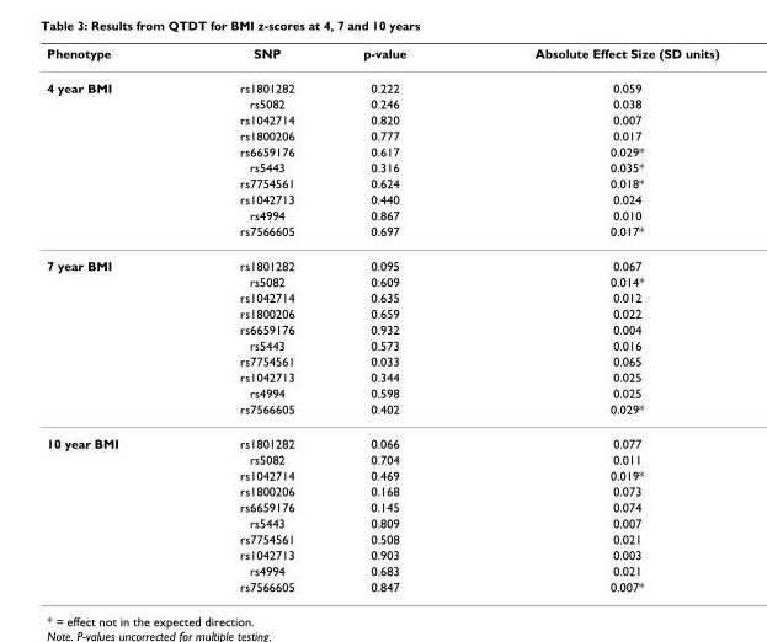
<table><thead><tr><td>Phenotype</td><td>SNP</td><td>p-value</td><td>Absolute Effect Size (SD units)</td></tr></thead><tbody><tr><td rowspan="10">4 year BMI</td><td>rs1801282</td><td>0.222</td><td>0.059</td></tr><tr><td>rs5082</td><td>0.246</td><td>0.038</td></tr><tr><td>rs1042714</td><td>0.820</td><td>0.007</td></tr><tr><td>rs1800206</td><td>0.777</td><td>0.017</td></tr><tr><td>rs6659176</td><td>0.617</td><td>0.029*</td></tr><tr><td>rs5443</td><td>0.316</td><td>0.035*</td></tr><tr><td>rs7754561</td><td>0.624</td><td>0.018*</td></tr><tr><td>rs1042713</td><td>0.440</td><td>0.024</td></tr><tr><td>rs4994</td><td>0.867</td><td>0.010</td></tr><tr><td>rs7566605</td><td>0.697</td><td>0.017*</td></tr><tr><td rowspan="10">7 year BMI</td><td>rs1801282</td><td>0.095</td><td>0.067</td></tr><tr><td>rs5082</td><td>0.609</td><td>0.014*</td></tr><tr><td>rs1042714</td><td>0.635</td><td>0.012</td></tr><tr><td>rs1800206</td><td>0.659</td><td>0.022</td></tr><tr><td>rs6659176</td><td>0.932</td><td>0.004</td></tr><tr><td>rs5443</td><td>0.573</td><td>0.016</td></tr><tr><td>rs7754561</td><td>0.033</td><td>0.065</td></tr><tr><td>rs1042713</td><td>0.344</td><td>0.025</td></tr><tr><td>rs4994</td><td>0.598</td><td>0.025</td></tr><tr><td>rs7566605</td><td>0.402</td><td>0.029*</td></tr><tr><td rowspan="10">10 year BMI</td><td>rs1801282</td><td>0.066</td><td>0.077</td></tr><tr><td>rs5082</td><td>0.704</td><td>0.011</td></tr><tr><td>rs1042714</td><td>0.469</td><td>0.019*</td></tr><tr><td>rs1800206</td><td>0.168</td><td>0.073</td></tr><tr><td>rs6659176</td><td>0.145</td><td>0.074</td></tr><tr><td>rs5443</td><td>0.809</td><td>0.007</td></tr><tr><td>rs7754561</td><td>0.508</td><td>0.021</td></tr><tr><td>rs1042713</td><td>0.903</td><td>0.003</td></tr><tr><td>rs4994</td><td>0.683</td><td>0.021</td></tr><tr><td>rs7566605</td><td>0.847</td><td>0.007*</td></tr></tbody></table>